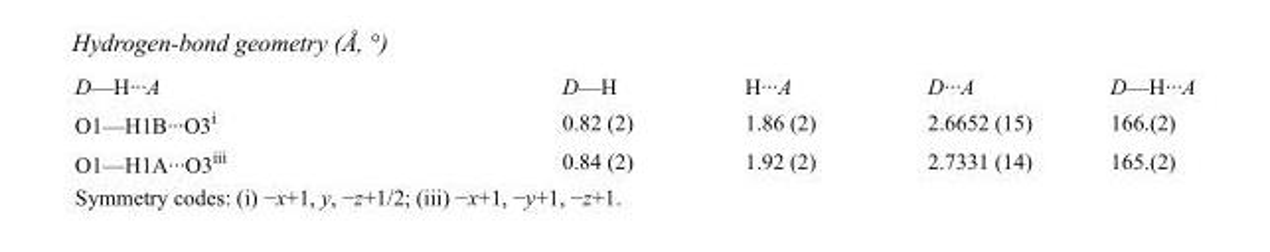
<table><tbody><tr><td>D—H···A</td><td>D—H</td><td>H···A</td><td>D···A</td><td>D—H···A</td></tr><tr><td>O1—H1B···O3<sup>i</sup></td><td>0.82 (2)</td><td>1.86 (2)</td><td>2.6652 (15)</td><td>166.(2)</td></tr><tr><td>O1—H1A···O3<sup>iii</sup></td><td>0.84 (2)</td><td>1.92 (2)</td><td>2.7331 (14)</td><td>165.(2)</td></tr></tbody></table>